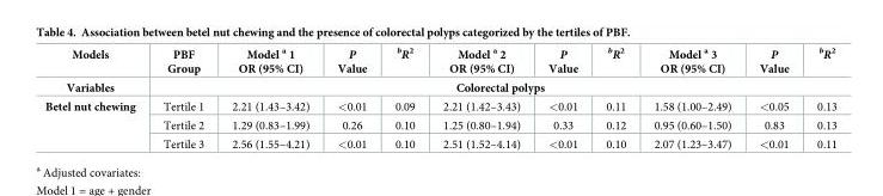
<table><thead><tr><td>Models</td><td>PBF Group</td><td>Model <sup>a</sup> 1 OR (95% CI)</td><td>P Value</td><td><sup>b</sup>R<sup>2</sup></td><td>Model <sup>a</sup> 2 OR (95% CI)</td><td>P Value</td><td><sup>b</sup>R<sup>2</sup></td><td>Model <sup>a</sup> 3 OR (95% CI)</td><td>P Value</td><td><sup>b</sup>R<sup>2</sup></td></tr></thead><tbody><tr><td>Variables</td><td colspan="10">Colorectal polyps</td></tr><tr><td rowspan="3">Betel nut chewing</td><td>Tertile 1</td><td>2.21 (1.43–3.42)</td><td>&lt;0.01</td><td>0.09</td><td>2.21 (1.42–3.43)</td><td>&lt;0.01</td><td>0.11</td><td>1.58 (1.00–2.49)</td><td>&lt;0.05</td><td>0.13</td></tr><tr><td>Tertile 2</td><td>1.29 (0.83–1.99)</td><td>0.26</td><td>0.10</td><td>1.25 (0.80–1.94)</td><td>0.33</td><td>0.12</td><td>0.95 (0.60–1.50)</td><td>0.83</td><td>0.13</td></tr><tr><td>Tertile 3</td><td>2.56 (1.55–4.21)</td><td>&lt;0.01</td><td>0.10</td><td>2.51 (1.52–4.14)</td><td>&lt;0.01</td><td>0.10</td><td>2.07 (1.23–3.47)</td><td>&lt;0.01</td><td>0.11</td></tr></tbody></table>